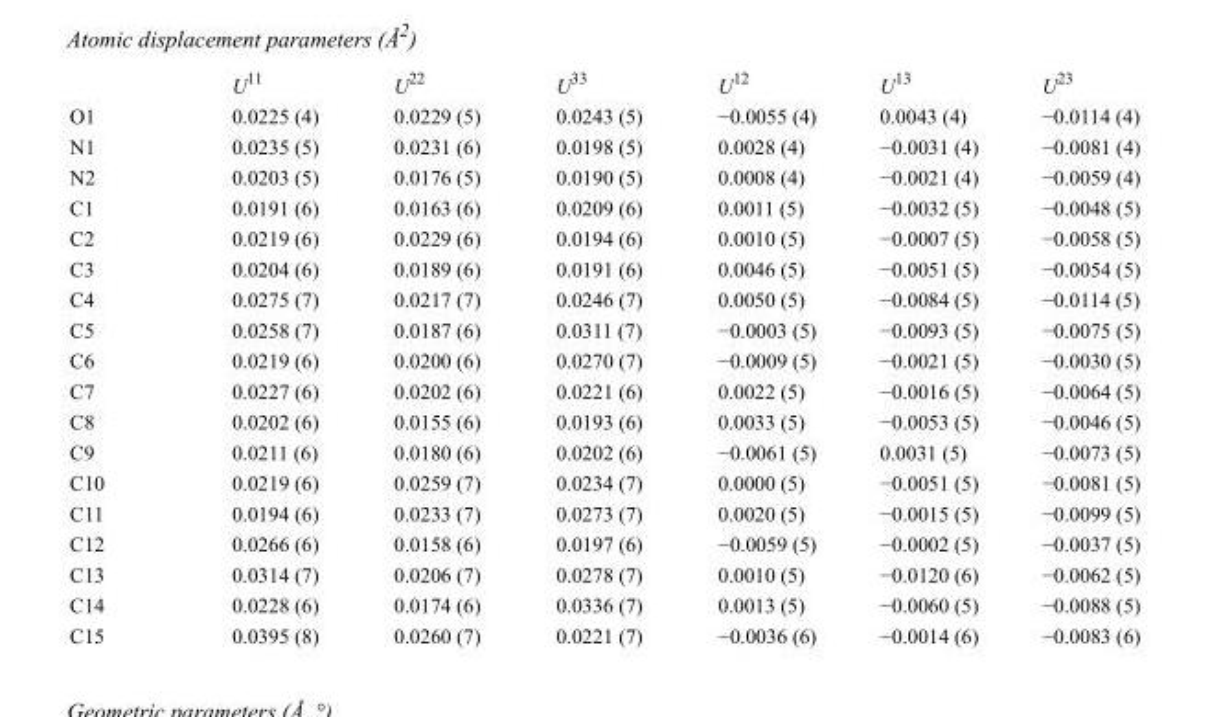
<table><thead><tr><td></td><td>U<sup>11</sup></td><td>U<sup>22</sup></td><td>U<sup>33</sup></td><td>U<sup>12</sup></td><td>U<sup>13</sup></td><td>U<sup>23</sup></td></tr></thead><tbody><tr><td>O1</td><td>0.0225 (4)</td><td>0.0229 (5)</td><td>0.0243 (5)</td><td>−0.0055 (4)</td><td>0.0043 (4)</td><td>−0.0114 (4)</td></tr><tr><td>N1</td><td>0.0235 (5)</td><td>0.0231 (6)</td><td>0.0198 (5)</td><td>0.0028 (4)</td><td>−0.0031 (4)</td><td>−0.0081 (4)</td></tr><tr><td>N2</td><td>0.0203 (5)</td><td>0.0176 (5)</td><td>0.0190 (5)</td><td>0.0008 (4)</td><td>−0.0021 (4)</td><td>−0.0059 (4)</td></tr><tr><td>C1</td><td>0.0191 (6)</td><td>0.0163 (6)</td><td>0.0209 (6)</td><td>0.0011 (5)</td><td>−0.0032 (5)</td><td>−0.0048 (5)</td></tr><tr><td>C2</td><td>0.0219 (6)</td><td>0.0229 (6)</td><td>0.0194 (6)</td><td>0.0010 (5)</td><td>−0.0007 (5)</td><td>−0.0058 (5)</td></tr><tr><td>C3</td><td>0.0204 (6)</td><td>0.0189 (6)</td><td>0.0191 (6)</td><td>0.0046 (5)</td><td>−0.0051 (5)</td><td>−0.0054 (5)</td></tr><tr><td>C4</td><td>0.0275 (7)</td><td>0.0217 (7)</td><td>0.0246 (7)</td><td>0.0050 (5)</td><td>−0.0084 (5)</td><td>−0.0114 (5)</td></tr><tr><td>C5</td><td>0.0258 (7)</td><td>0.0187 (6)</td><td>0.0311 (7)</td><td>−0.0003 (5)</td><td>−0.0093 (5)</td><td>−0.0075 (5)</td></tr><tr><td>C6</td><td>0.0219 (6)</td><td>0.0200 (6)</td><td>0.0270 (7)</td><td>−0.0009 (5)</td><td>−0.0021 (5)</td><td>−0.0030 (5)</td></tr><tr><td>C7</td><td>0.0227 (6)</td><td>0.0202 (6)</td><td>0.0221 (6)</td><td>0.0022 (5)</td><td>−0.0016 (5)</td><td>−0.0064 (5)</td></tr><tr><td>C8</td><td>0.0202 (6)</td><td>0.0155 (6)</td><td>0.0193 (6)</td><td>0.0033 (5)</td><td>−0.0053 (5)</td><td>−0.0046 (5)</td></tr><tr><td>C9</td><td>0.0211 (6)</td><td>0.0180 (6)</td><td>0.0202 (6)</td><td>−0.0061 (5)</td><td>0.0031 (5)</td><td>−0.0073 (5)</td></tr><tr><td>C10</td><td>0.0219 (6)</td><td>0.0259 (7)</td><td>0.0234 (7)</td><td>0.0000 (5)</td><td>−0.0051 (5)</td><td>−0.0081 (5)</td></tr><tr><td>C11</td><td>0.0194 (6)</td><td>0.0233 (7)</td><td>0.0273 (7)</td><td>0.0020 (5)</td><td>−0.0015 (5)</td><td>−0.0099 (5)</td></tr><tr><td>C12</td><td>0.0266 (6)</td><td>0.0158 (6)</td><td>0.0197 (6)</td><td>−0.0059 (5)</td><td>−0.0002 (5)</td><td>−0.0037 (5)</td></tr><tr><td>C13</td><td>0.0314 (7)</td><td>0.0206 (7)</td><td>0.0278 (7)</td><td>0.0010 (5)</td><td>−0.0120 (6)</td><td>−0.0062 (5)</td></tr><tr><td>C14</td><td>0.0228 (6)</td><td>0.0174 (6)</td><td>0.0336 (7)</td><td>0.0013 (5)</td><td>−0.0060 (5)</td><td>−0.0088 (5)</td></tr><tr><td>C15</td><td>0.0395 (8)</td><td>0.0260 (7)</td><td>0.0221 (7)</td><td>−0.0036 (6)</td><td>−0.0014 (6)</td><td>−0.0083 (6)</td></tr></tbody></table>